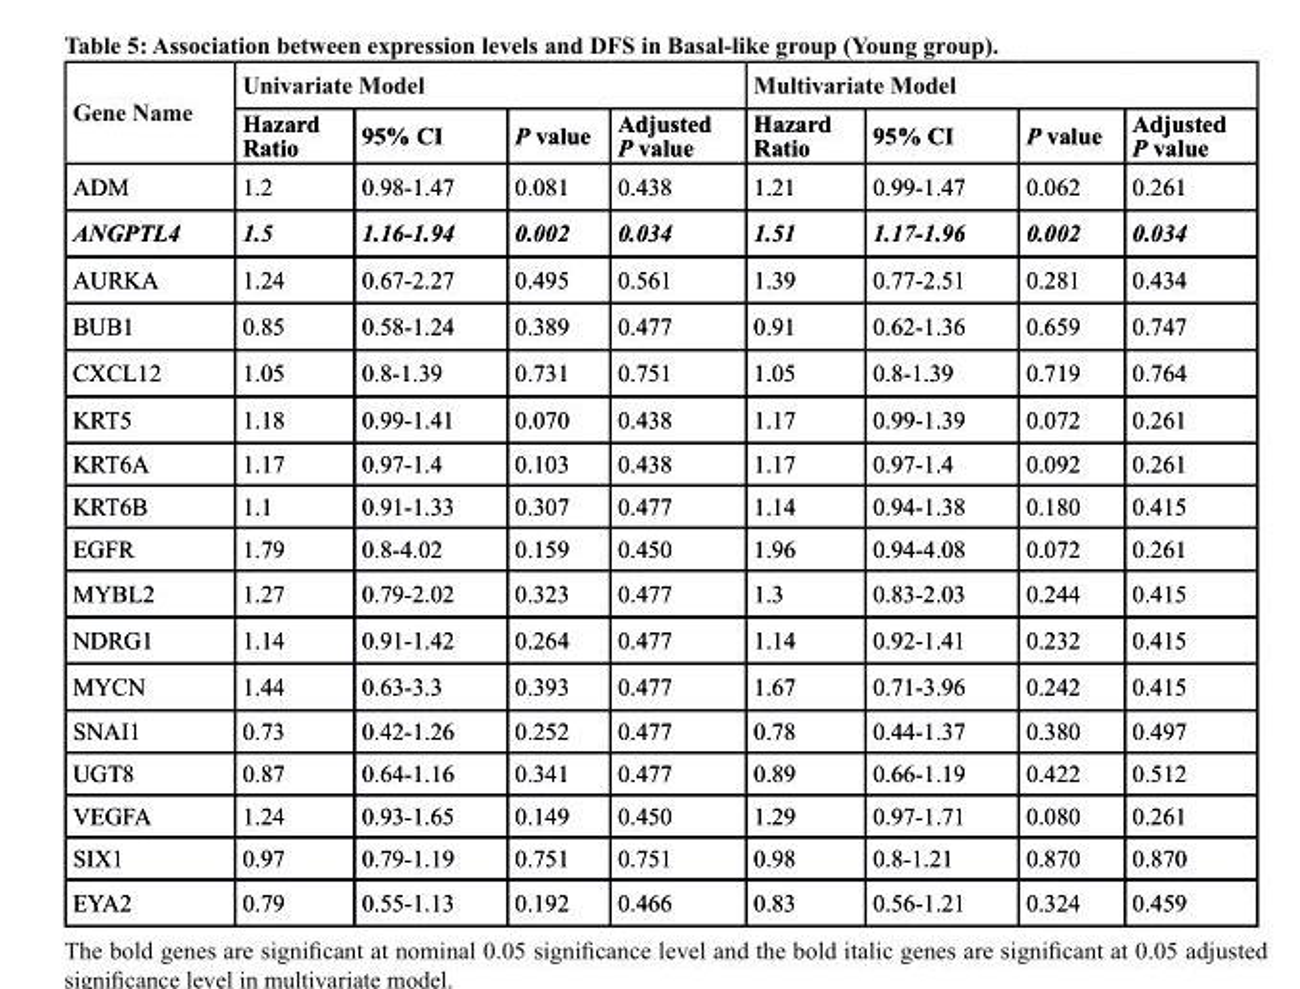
<table><thead><tr><td rowspan="2">Gene Name</td><td colspan="4">Univariate Model</td><td colspan="4">Multivariate Model</td></tr><tr><td>Hazard Ratio</td><td>95% CI</td><td>P value</td><td>Adjusted P value</td><td>Hazard Ratio</td><td>95% CI</td><td>P value</td><td>Adjusted P value</td></tr></thead><tbody><tr><td>ADM</td><td>1.2</td><td>0.98-1.47</td><td>0.081</td><td>0.438</td><td>1.21</td><td>0.99-1.47</td><td>0.062</td><td>0.261</td></tr><tr><td>ANGPTL4</td><td>1.5</td><td>1.16-1.94</td><td>0.002</td><td>0.034</td><td>1.51</td><td>1.17-1.96</td><td>0.002</td><td>0.034</td></tr><tr><td>AURKA</td><td>1.24</td><td>0.67-2.27</td><td>0.495</td><td>0.561</td><td>1.39</td><td>0.77-2.51</td><td>0.281</td><td>0.434</td></tr><tr><td>BUB1</td><td>0.85</td><td>0.58-1.24</td><td>0.389</td><td>0.477</td><td>0.91</td><td>0.62-1.36</td><td>0.659</td><td>0.747</td></tr><tr><td>CXCL12</td><td>1.05</td><td>0.8-1.39</td><td>0.731</td><td>0.751</td><td>1.05</td><td>0.8-1.39</td><td>0.719</td><td>0.764</td></tr><tr><td>KRT5</td><td>1.18</td><td>0.99-1.41</td><td>0.070</td><td>0.438</td><td>1.17</td><td>0.99-1.39</td><td>0.072</td><td>0.261</td></tr><tr><td>KRT6A</td><td>1.17</td><td>0.97-1.4</td><td>0.103</td><td>0.438</td><td>1.17</td><td>0.97-1.4</td><td>0.092</td><td>0.261</td></tr><tr><td>KRT6B</td><td>1.1</td><td>0.91-1.33</td><td>0.307</td><td>0.477</td><td>1.14</td><td>0.94-1.38</td><td>0.180</td><td>0.415</td></tr><tr><td>EGFR</td><td>1.79</td><td>0.8-4.02</td><td>0.159</td><td>0.450</td><td>1.96</td><td>0.94-4.08</td><td>0.072</td><td>0.261</td></tr><tr><td>MYBL2</td><td>1.27</td><td>0.79-2.02</td><td>0.323</td><td>0.477</td><td>1.3</td><td>0.83-2.03</td><td>0.244</td><td>0.415</td></tr><tr><td>NDRG1</td><td>1.14</td><td>0.91-1.42</td><td>0.264</td><td>0.477</td><td>1.14</td><td>0.92-1.41</td><td>0.232</td><td>0.415</td></tr><tr><td>MYCN</td><td>1.44</td><td>0.63-3.3</td><td>0.393</td><td>0.477</td><td>1.67</td><td>0.71-3.96</td><td>0.242</td><td>0.415</td></tr><tr><td>SNAI1</td><td>0.73</td><td>0.42-1.26</td><td>0.252</td><td>0.477</td><td>0.78</td><td>0.44-1.37</td><td>0.380</td><td>0.497</td></tr><tr><td>UGT8</td><td>0.87</td><td>0.64-1.16</td><td>0.341</td><td>0.477</td><td>0.89</td><td>0.66-1.19</td><td>0.422</td><td>0.512</td></tr><tr><td>VEGFA</td><td>1.24</td><td>0.93-1.65</td><td>0.149</td><td>0.450</td><td>1.29</td><td>0.97-1.71</td><td>0.080</td><td>0.261</td></tr><tr><td>SIX1</td><td>0.97</td><td>0.79-1.19</td><td>0.751</td><td>0.751</td><td>0.98</td><td>0.8-1.21</td><td>0.870</td><td>0.870</td></tr><tr><td>EYA2</td><td>0.79</td><td>0.55-1.13</td><td>0.192</td><td>0.466</td><td>0.83</td><td>0.56-1.21</td><td>0.324</td><td>0.459</td></tr></tbody></table>